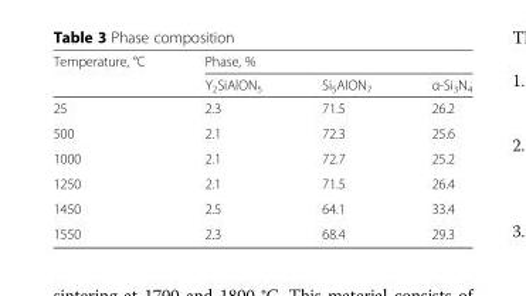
<table><thead><tr><td rowspan="2">Temperature, °C</td><td colspan="3">Phase, %</td></tr><tr><td>Y<sub>2</sub>SiAlON<sub>5</sub></td><td>Si<sub>5</sub>AlON<sub>7</sub></td><td>α-Si<sub>3</sub>N<sub>4</sub></td></tr></thead><tbody><tr><td>25</td><td>2.3</td><td>71.5</td><td>26.2</td></tr><tr><td>500</td><td>2.1</td><td>72.3</td><td>25.6</td></tr><tr><td>1000</td><td>2.1</td><td>72.7</td><td>25.2</td></tr><tr><td>1250</td><td>2.1</td><td>71.5</td><td>26.4</td></tr><tr><td>1450</td><td>2.5</td><td>64.1</td><td>33.4</td></tr><tr><td>1550</td><td>2.3</td><td>68.4</td><td>29.3</td></tr></tbody></table>